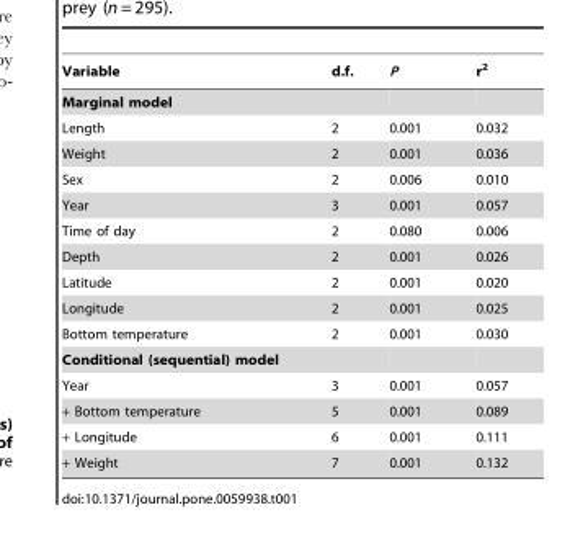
<table><thead><tr><td>Variable</td><td>d.f.</td><td>P</td><td>r<sup>2</sup></td></tr></thead><tbody><tr><td colspan="4">Marginal model</td></tr><tr><td>Length</td><td>2</td><td>0.001</td><td>0.032</td></tr><tr><td>Weight</td><td>2</td><td>0.001</td><td>0.036</td></tr><tr><td>Sex</td><td>2</td><td>0.006</td><td>0.010</td></tr><tr><td>Year</td><td>3</td><td>0.001</td><td>0.057</td></tr><tr><td>Time of day</td><td>2</td><td>0.080</td><td>0.006</td></tr><tr><td>Depth</td><td>2</td><td>0.001</td><td>0.026</td></tr><tr><td>Latitude</td><td>2</td><td>0.001</td><td>0.020</td></tr><tr><td>Longitude</td><td>2</td><td>0.001</td><td>0.025</td></tr><tr><td>Bottom temperature</td><td>2</td><td>0.001</td><td>0.030</td></tr><tr><td colspan="4">Conditional (sequential) model</td></tr><tr><td>Year</td><td>3</td><td>0.001</td><td>0.057</td></tr><tr><td>+ Bottom temperature</td><td>5</td><td>0.001</td><td>0.089</td></tr><tr><td>+ Longitude</td><td>6</td><td>0.001</td><td>0.111</td></tr><tr><td>+ Weight</td><td>7</td><td>0.001</td><td>0.132</td></tr></tbody></table>